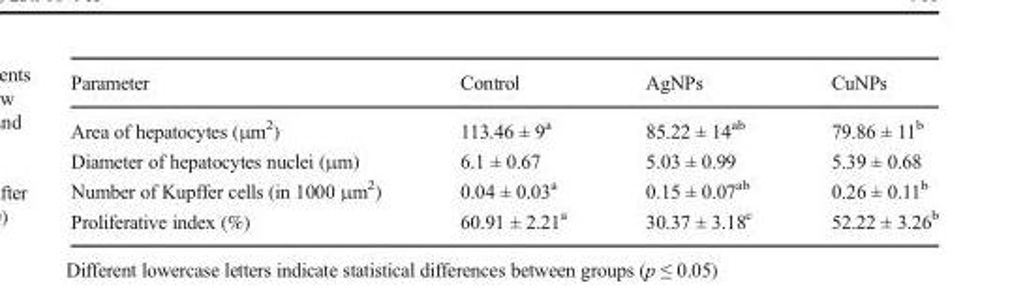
<table><thead><tr><td>Parameter</td><td>Control</td><td>AgNPs</td><td>CuNPs</td></tr></thead><tbody><tr><td>Area of hepatocytes (μm<sup>2</sup>)</td><td>113.46 ± 9<sup>a</sup></td><td>85.22 ± 14<sup>ab</sup></td><td>79.86 ± 11<sup>b</sup></td></tr><tr><td>Diameter of hepatocytes nuclei (μm)</td><td>6.1 ± 0.67</td><td>5.03 ± 0.99</td><td>5.39 ± 0.68</td></tr><tr><td>Number of Kupffer cells (in 1000 μm<sup>2</sup>)</td><td>0.04 ± 0.03<sup>a</sup></td><td>0.15 ± 0.07<sup>ab</sup></td><td>0.26 ± 0.11<sup>b</sup></td></tr><tr><td>Proliferative index (%)</td><td>60.91 ± 2.21<sup>a</sup></td><td>30.37 ± 3.18<sup>c</sup></td><td>52.22 ± 3.26<sup>b</sup></td></tr></tbody></table>